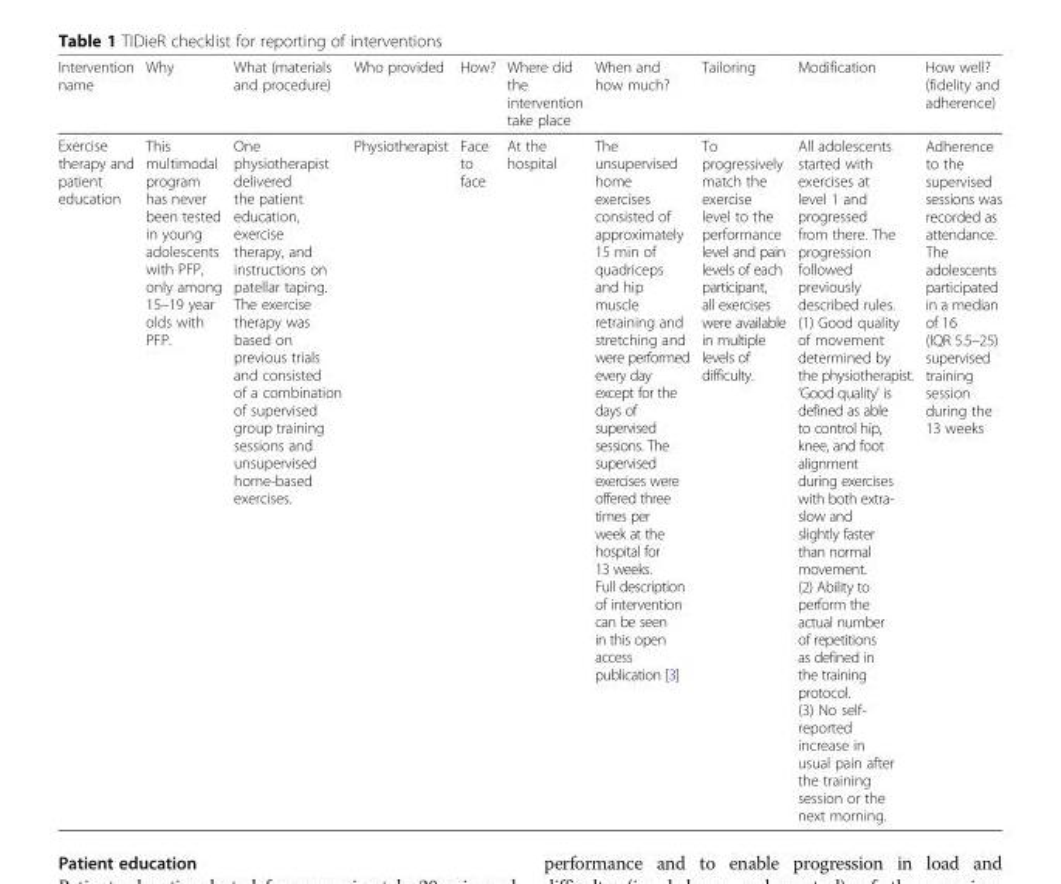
<table><thead><tr><td>Intervention name</td><td>Why</td><td>What (materials and procedure)</td><td>Who provided</td><td>How?</td><td>Where did the intervention take place</td><td>When and how much?</td><td>Tailoring</td><td>Modification</td><td>How well? (fidelity and adherence)</td></tr></thead><tbody><tr><td>Exercise therapy and patient education</td><td>This multimodal program has never been tested in young adolescents with PFP, only among 15–19 year olds with PFP.</td><td>One physiotherapist delivered the patient education, exercise therapy, and instructions on patellar taping. The exercise therapy was based on previous trials and consisted of a combination of supervised group training sessions and unsupervised home-based exercises.</td><td>Physiotherapist</td><td>Face to face</td><td>At the hospital</td><td>The unsupervised home exercises consisted of approximately 15 min of quadriceps and hip muscle retraining and stretching and were performed every day except for the days of supervised sessions. The supervised exercises were offered three times per week at the hospital for 13 weeks. Full description of intervention can be seen in this open access publication [3]</td><td>To progressively match the exercise level to the performance level and pain levels of each participant, all exercises were available in multiple levels of difficulty.</td><td>All adolescents started with exercises at level 1 and progressed from there. The progression followed previously described rules. (1) Good quality of movement determined by the physiotherapist. ‘Good quality’ is defined as able to control hip, knee, and foot alignment during exercises with both extra- slow and slightly faster than normal movement. (2) Ability to perform the actual number of repetitions as defined in the training protocol. (3) No self- reported increase in usual pain after the training session or the next morning.</td><td>Adherence to the supervised sessions was recorded as attendance. The adolescents participated in a median of 16 (IQR 5.5–25) supervised training session during the 13 weeks</td></tr></tbody></table>